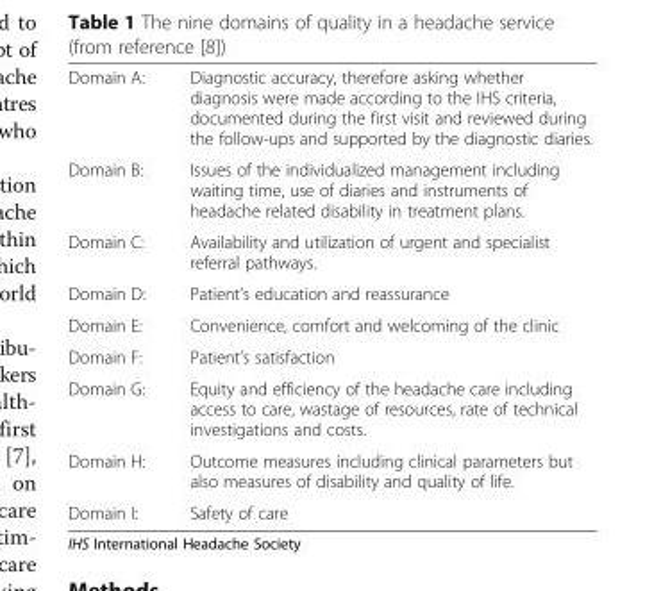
<table><tbody><tr><td>Domain A:</td><td>Diagnostic accuracy, therefore asking whether diagnosis were made according to the IHS criteria, documented during the first visit and reviewed during the follow-ups and supported by the diagnostic diaries.</td></tr><tr><td>Domain B:</td><td>Issues of the individualized management including waiting time, use of diaries and instruments of headache related disability in treatment plans.</td></tr><tr><td>Domain C:</td><td>Availability and utilization of urgent and specialist referral pathways.</td></tr><tr><td>Domain D:</td><td>Patient’s education and reassurance</td></tr><tr><td>Domain E:</td><td>Convenience, comfort and welcoming of the clinic</td></tr><tr><td>Domain F:</td><td>Patient’s satisfaction</td></tr><tr><td>Domain G:</td><td>Equity and efficiency of the headache care including access to care, wastage of resources, rate of technical investigations and costs.</td></tr><tr><td>Domain H:</td><td>Outcome measures including clinical parameters but also measures of disability and quality of life.</td></tr><tr><td>Domain I:</td><td>Safety of care</td></tr></tbody></table>